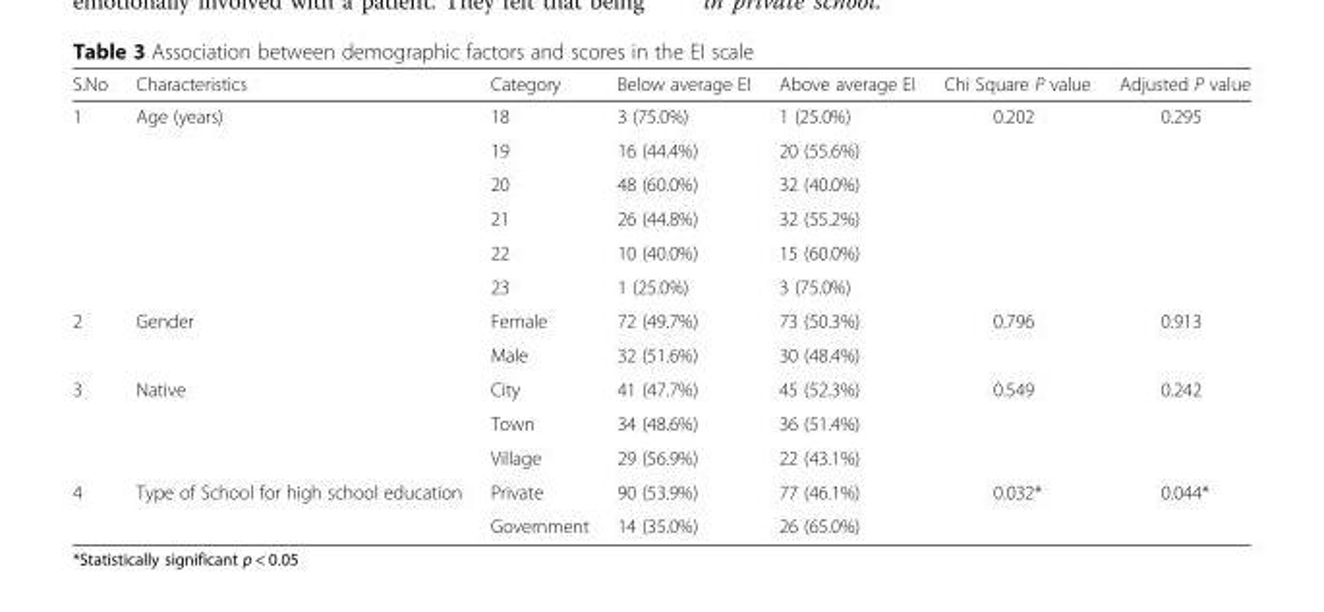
<table><thead><tr><td>S.No</td><td>Characteristics</td><td>Category</td><td>Below average EI</td><td>Above average EI</td><td>Chi Square P value</td><td>Adjusted P value</td></tr></thead><tbody><tr><td rowspan="6">1</td><td rowspan="6">Age (years)</td><td>18</td><td>3 (75.0%)</td><td>1 (25.0%)</td><td rowspan="6">0.202</td><td rowspan="6">0.295</td></tr><tr><td>19</td><td>16 (44.4%)</td><td>20 (55.6%)</td></tr><tr><td>20</td><td>48 (60.0%)</td><td>32 (40.0%)</td></tr><tr><td>21</td><td>26 (44.8%)</td><td>32 (55.2%)</td></tr><tr><td>22</td><td>10 (40.0%)</td><td>15 (60.0%)</td></tr><tr><td>23</td><td>1 (25.0%)</td><td>3 (75.0%)</td></tr><tr><td rowspan="2">2</td><td rowspan="2">Gender</td><td>Female</td><td>72 (49.7%)</td><td>73 (50.3%)</td><td rowspan="2">0.796</td><td rowspan="2">0.913</td></tr><tr><td>Male</td><td>32 (51.6%)</td><td>30 (48.4%)</td></tr><tr><td rowspan="3">3</td><td rowspan="3">Native</td><td>City</td><td>41 (47.7%)</td><td>45 (52.3%)</td><td rowspan="3">0.549</td><td rowspan="3">0.242</td></tr><tr><td>Town</td><td>34 (48.6%)</td><td>36 (51.4%)</td></tr><tr><td>Village</td><td>29 (56.9%)</td><td>22 (43.1%)</td></tr><tr><td rowspan="2">4</td><td rowspan="2">Type of School for high school education</td><td>Private</td><td>90 (53.9%)</td><td>77 (46.1%)</td><td rowspan="2">0.032*</td><td rowspan="2">0.044*</td></tr><tr><td>Government</td><td>14 (35.0%)</td><td>26 (65.0%)</td></tr></tbody></table>